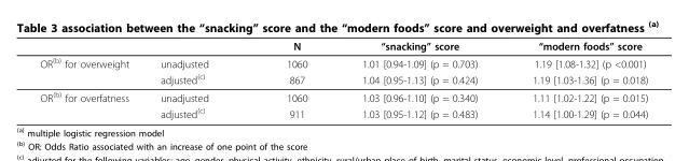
<table><thead><tr><td></td><td></td><td>N</td><td>“snacking” score</td><td>“modern foods” score</td></tr></thead><tbody><tr><td rowspan="2">OR<sup>(b)</sup> for overweight</td><td>unadjusted</td><td>1060</td><td>1.01 [0.94-1.09] (p = 0.703)</td><td>1.19 [1.08-1.32] (p &lt;0.001)</td></tr><tr><td>adjusted<sup>(c)</sup></td><td>867</td><td>1.04 [0.95-1.13] (p = 0.424)</td><td>1.19 [1.03-1.36] (p = 0.018)</td></tr><tr><td rowspan="2">OR<sup>(b)</sup> for overfatness</td><td>unadjusted</td><td>1060</td><td>1.03 [0.96-1.10] (p = 0.340)</td><td>1.11 [1.02-1.22] (p = 0.015)</td></tr><tr><td>adjusted<sup>(c)</sup></td><td>911</td><td>1.03 [0.95-1.12] (p = 0.483)</td><td>1.14 [1.00-1.29] (p = 0.044)</td></tr></tbody></table>